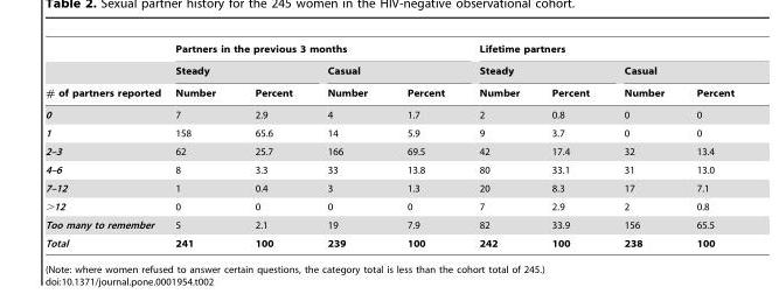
<table><thead><tr><td rowspan="3"># of partners reported</td><td colspan="4">Partners in the previous 3 months</td><td colspan="4">Lifetime partners</td></tr><tr><td colspan="2">Steady</td><td colspan="2">Casual</td><td colspan="2">Steady</td><td colspan="2">Casual</td></tr><tr><td>Number</td><td>Percent</td><td>Number</td><td>Percent</td><td>Number</td><td>Percent</td><td>Number</td><td>Percent</td></tr></thead><tbody><tr><td>0</td><td>7</td><td>2.9</td><td>4</td><td>1.7</td><td>2</td><td>0.8</td><td>0</td><td>0</td></tr><tr><td>1</td><td>158</td><td>65.6</td><td>14</td><td>5.9</td><td>9</td><td>3.7</td><td>0</td><td>0</td></tr><tr><td>2–3</td><td>62</td><td>25.7</td><td>166</td><td>69.5</td><td>42</td><td>17.4</td><td>32</td><td>13.4</td></tr><tr><td>4–6</td><td>8</td><td>3.3</td><td>33</td><td>13.8</td><td>80</td><td>33.1</td><td>31</td><td>13.0</td></tr><tr><td>7–12</td><td>1</td><td>0.4</td><td>3</td><td>1.3</td><td>20</td><td>8.3</td><td>17</td><td>7.1</td></tr><tr><td>&gt;12</td><td>0</td><td>0</td><td>0</td><td>0</td><td>7</td><td>2.9</td><td>2</td><td>0.8</td></tr><tr><td>Too many to remember</td><td>5</td><td>2.1</td><td>19</td><td>7.9</td><td>82</td><td>33.9</td><td>156</td><td>65.5</td></tr><tr><td>Total</td><td>241</td><td>100</td><td>239</td><td>100</td><td>242</td><td>100</td><td>238</td><td>100</td></tr></tbody></table>